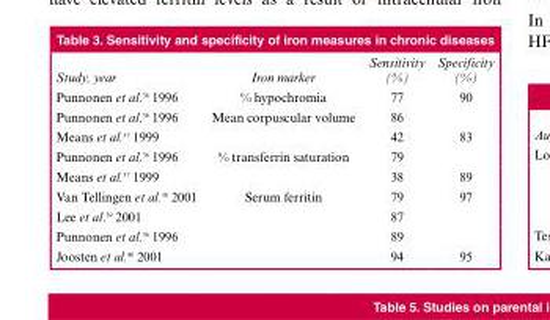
<table><thead><tr><td>Study, year</td><td>Iron marker</td><td>Sensitivity (%)</td><td>Specificity (%)</td></tr></thead><tbody><tr><td>Punnonen et al.<sup>36</sup> 1996</td><td>% hypochromia</td><td>77</td><td>90</td></tr><tr><td>Punnonen et al.<sup>36</sup> 1996</td><td>Mean corpuscular volume</td><td>86</td><td></td></tr><tr><td>Means et al.<sup>37</sup> 1999</td><td></td><td>42</td><td>83</td></tr><tr><td>Punnonen et al.<sup>36</sup> 1996</td><td>% transferrin saturation</td><td>79</td><td></td></tr><tr><td>Means et al.<sup>37</sup> 1999</td><td></td><td>38</td><td>89</td></tr><tr><td>Van Tellingen et al.<sup>38</sup> 2001</td><td>Serum ferritin</td><td>79</td><td>97</td></tr><tr><td>Lee et al.<sup>39</sup> 2001</td><td></td><td>87</td><td></td></tr><tr><td>Punnonen et al.<sup>36</sup> 1996</td><td></td><td>89</td><td></td></tr><tr><td>Joosten et al.<sup>40</sup> 2001</td><td></td><td>94</td><td>95</td></tr></tbody></table>